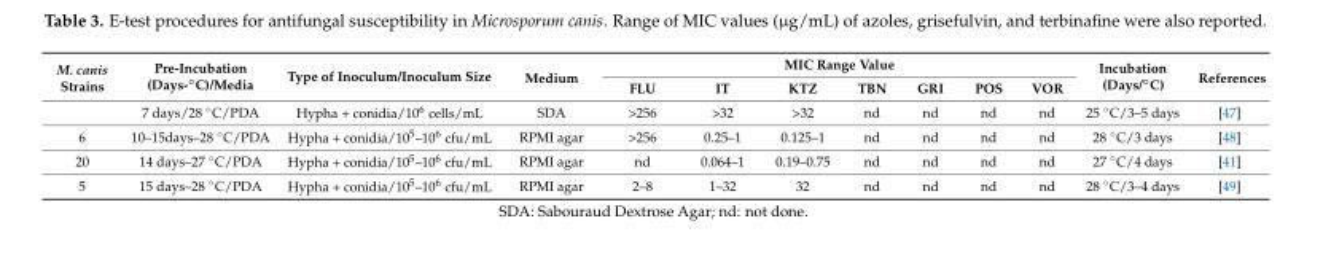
<table><thead><tr><td rowspan="2">M. canis Strains</td><td rowspan="2">Pre-Incubation (Days-◦C)/Media</td><td rowspan="2">Type of Inoculum/Inoculum Size</td><td rowspan="2">Medium</td><td colspan="7">MIC Range Value</td><td rowspan="2">Incubation (Days/◦C)</td><td rowspan="2">References</td></tr><tr><td>FLU</td><td>IT</td><td>KTZ</td><td>TBN</td><td>GRI</td><td>POS</td><td>VOR</td></tr></thead><tbody><tr><td></td><td>7 days/28 ◦C/PDA</td><td>Hypha + conidia/10<sup>6</sup> cells/mL</td><td>SDA</td><td>&gt;256</td><td>&gt;32</td><td>&gt;32</td><td>nd</td><td>nd</td><td>nd</td><td>nd</td><td>25 ◦C/3–5 days</td><td>[47]</td></tr><tr><td>6</td><td>10–15days–28 ◦C/PDA</td><td>Hypha + conidia/10<sup>5</sup>–10<sup>6</sup> cfu/mL</td><td>RPMI agar</td><td>&gt;256</td><td>0.25–1</td><td>0.125–1</td><td>nd</td><td>nd</td><td>nd</td><td>nd</td><td>28 ◦C/3 days</td><td>[48]</td></tr><tr><td>20</td><td>14 days–27 ◦C/PDA</td><td>Hypha + conidia/10<sup>5</sup>–10<sup>6</sup> cfu/mL</td><td>RPMI agar</td><td>nd</td><td>0.064–1</td><td>0.19–0.75</td><td>nd</td><td>nd</td><td>nd</td><td>nd</td><td>27 ◦C/4 days</td><td>[41]</td></tr><tr><td>5</td><td>15 days–28 ◦C/PDA</td><td>Hypha + conidia/10<sup>5</sup>–10<sup>6</sup> cfu/mL</td><td>RPMI agar</td><td>2–8</td><td>1–32</td><td>32</td><td>nd</td><td>nd</td><td>nd</td><td>nd</td><td>28 ◦C/3–4 days</td><td>[49]</td></tr></tbody></table>